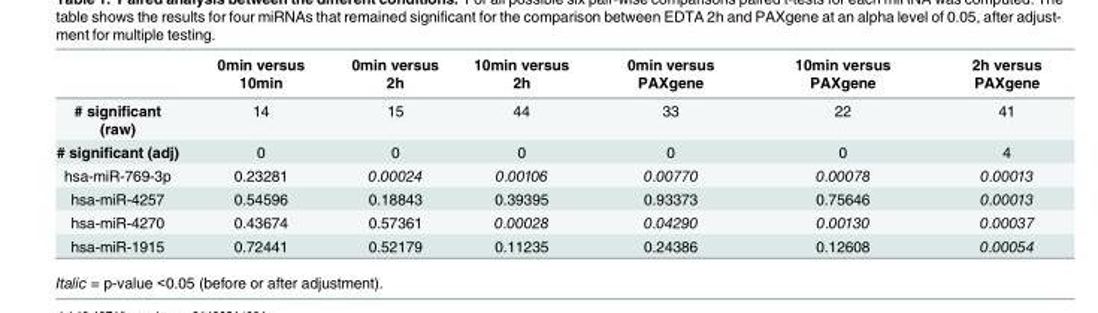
<table><thead><tr><td></td><td>0min versus 10min</td><td>0min versus 2h</td><td>10min versus 2h</td><td>0min versus PAXgene</td><td>10min versus PAXgene</td><td>2h versus PAXgene</td></tr></thead><tbody><tr><td># significant (raw)</td><td>14</td><td>15</td><td>44</td><td>33</td><td>22</td><td>41</td></tr><tr><td># significant (adj)</td><td>0</td><td>0</td><td>0</td><td>0</td><td>0</td><td>4</td></tr><tr><td>hsa-miR-769-3p</td><td>0.23281</td><td>0.00024</td><td>0.00106</td><td>0.00770</td><td>0.00078</td><td>0.00013</td></tr><tr><td>hsa-miR-4257</td><td>0.54596</td><td>0.18843</td><td>0.39395</td><td>0.93373</td><td>0.75646</td><td>0.00013</td></tr><tr><td>hsa-miR-4270</td><td>0.43674</td><td>0.57361</td><td>0.00028</td><td>0.04290</td><td>0.00130</td><td>0.00037</td></tr><tr><td>hsa-miR-1915</td><td>0.72441</td><td>0.52179</td><td>0.11235</td><td>0.24386</td><td>0.12608</td><td>0.00054</td></tr></tbody></table>